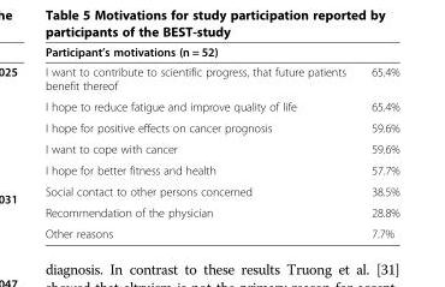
<table><thead><tr><td colspan="2">Participant’s motivations (n = 52)</td></tr><tr><td>I want to contribute to scientific progress, that future patients benefit thereof</td><td>65.4%</td></tr></thead><tbody><tr><td>I hope to reduce fatigue and improve quality of life</td><td>65.4%</td></tr><tr><td>I hope for positive effects on cancer prognosis</td><td>59.6%</td></tr><tr><td>I want to cope with cancer</td><td>59.6%</td></tr><tr><td>I hope for better fitness and health</td><td>57.7%</td></tr><tr><td>Social contact to other persons concerned</td><td>38.5%</td></tr><tr><td>Recommendation of the physician</td><td>28.8%</td></tr><tr><td>Other reasons</td><td>7.7%</td></tr></tbody></table>